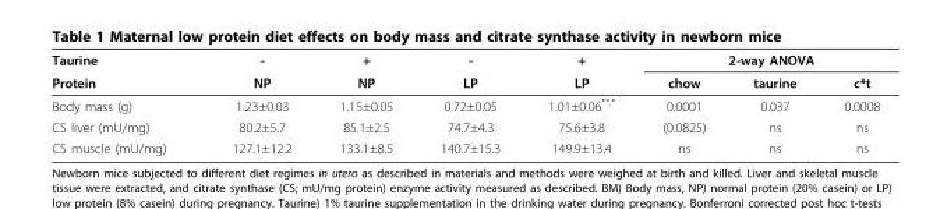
<table><thead><tr><td rowspan="2">Taurine Protein</td><td rowspan="2">- NP</td><td rowspan="2">+ NP</td><td rowspan="2">- LP</td><td rowspan="2">+ LP</td><td colspan="3">2-way ANOVA</td></tr><tr><td>chow</td><td>taurine</td><td>c*t</td></tr></thead><tbody><tr><td>Body mass (g)</td><td>1.23±0.03</td><td>1.15±0.05</td><td>0.72±0.05</td><td>1.01±0.06<sup>**,*</sup></td><td>0.0001</td><td>0.037</td><td>0.0008</td></tr><tr><td>CS liver (mU/mg)</td><td>80.2±5.7</td><td>85.1±2.5</td><td>74.7±4.3</td><td>75.6±3.8</td><td>(0.0825)</td><td>ns</td><td>ns</td></tr><tr><td>CS muscle (mU/mg)</td><td>127.1±12.2</td><td>133.1±8.5</td><td>140.7±15.3</td><td>149.9±13.4</td><td>ns</td><td>ns</td><td>ns</td></tr></tbody></table>